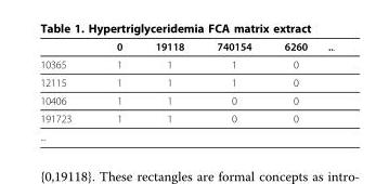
<table><thead><tr><td></td><td>0</td><td>19118</td><td>740154</td><td>6260</td><td>...</td></tr></thead><tbody><tr><td>10365</td><td>1</td><td>1</td><td>1</td><td>0</td><td></td></tr><tr><td>12115</td><td>1</td><td>1</td><td>1</td><td>0</td><td></td></tr><tr><td>10406</td><td>1</td><td>1</td><td>0</td><td>0</td><td></td></tr><tr><td>191723</td><td>1</td><td>1</td><td>0</td><td>0</td><td></td></tr><tr><td>...</td><td></td><td></td><td></td><td></td><td></td></tr></tbody></table>